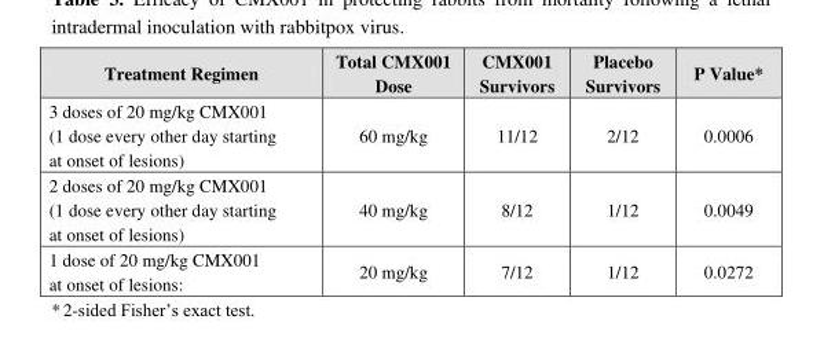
<table><thead><tr><td>Treatment Regimen</td><td>Total CMX001 Dose</td><td>CMX001 Survivors</td><td>Placebo Survivors</td><td>P Value*</td></tr></thead><tbody><tr><td>3 doses of 20 mg/kg CMX001 (1 dose every other day starting at onset of lesions)</td><td>60 mg/kg</td><td>11/12</td><td>2/12</td><td>0.0006</td></tr><tr><td>2 doses of 20 mg/kg CMX001 (1 dose every other day starting at onset of lesions)</td><td>40 mg/kg</td><td>8/12</td><td>1/12</td><td>0.0049</td></tr><tr><td>1 dose of 20 mg/kg CMX001 at onset of lesions:</td><td>20 mg/kg</td><td>7/12</td><td>1/12</td><td>0.0272</td></tr></tbody></table>